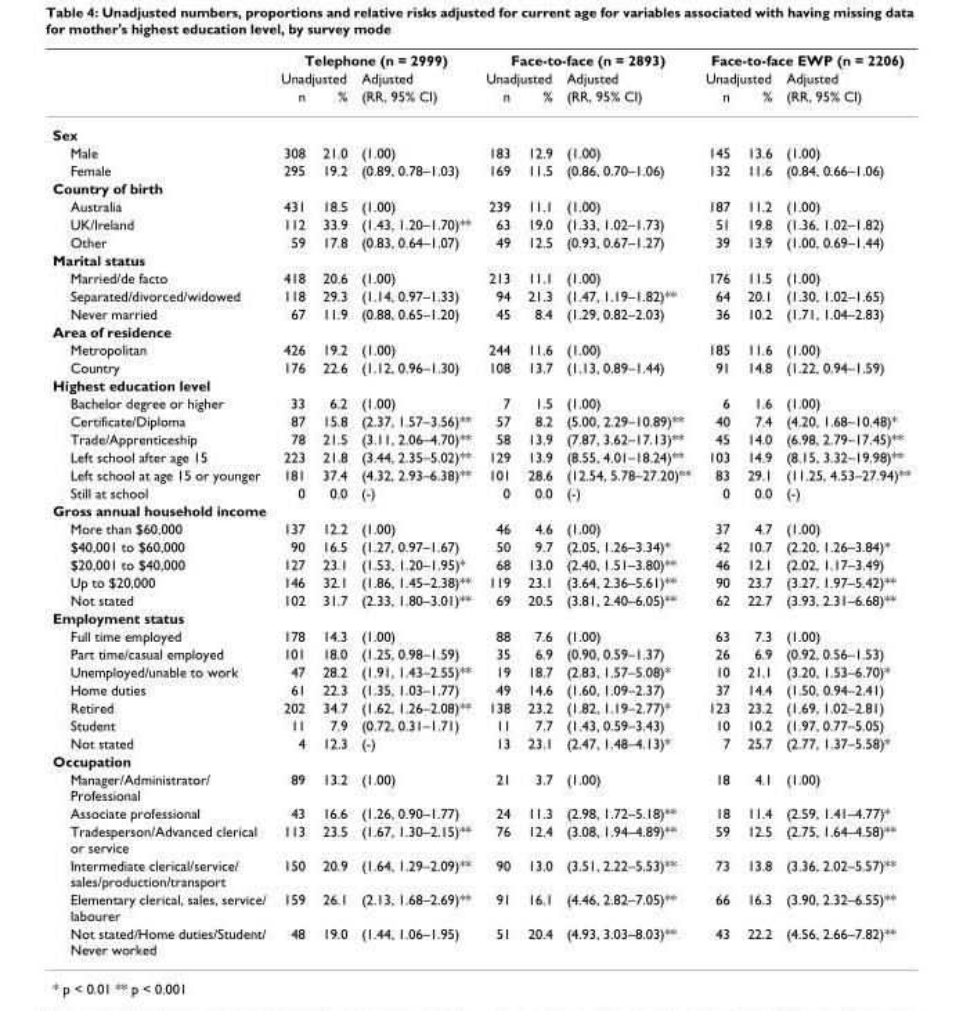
<table><thead><tr><td rowspan="3"></td><td colspan="3">Telephone (n = 2999)</td><td colspan="3">Face-to-face (n = 2893)</td><td colspan="3">Face-to-face EWP (n = 2206)</td></tr><tr><td colspan="2">Unadjusted</td><td rowspan="2">Adjusted (RR, 95% CI)</td><td colspan="2">Unadjusted</td><td rowspan="2">Adjusted (RR, 95% CI)</td><td colspan="2">Unadjusted</td><td rowspan="2">Adjusted (RR, 95% CI)</td></tr><tr><td>n</td><td>%</td><td>n</td><td>%</td><td>n</td><td>%</td></tr></thead><tbody><tr><td colspan="10">Sex</td></tr><tr><td>Male</td><td>308</td><td>21.0</td><td>(1.00)</td><td>183</td><td>12.9</td><td>(1.00)</td><td>145</td><td>13.6</td><td>(1.00)</td></tr><tr><td>Female</td><td>295</td><td>19.2</td><td>(0.89, 0.78–1.03)</td><td>169</td><td>11.5</td><td>(0.86, 0.70–1.06)</td><td>132</td><td>11.6</td><td>(0.84, 0.66–1.06)</td></tr><tr><td colspan="10">Country of birth</td></tr><tr><td>Australia</td><td>431</td><td>18.5</td><td>(1.00)</td><td>239</td><td>11.1</td><td>(1.00)</td><td>187</td><td>11.2</td><td>(1.00)</td></tr><tr><td>UK/Ireland</td><td>112</td><td>33.9</td><td>(1.43, 1.20–1.70)**</td><td>63</td><td>19.0</td><td>(1.33, 1.02–1.73)</td><td>51</td><td>19.8</td><td>(1.36, 1.02–1.82)</td></tr><tr><td>Other</td><td>59</td><td>17.8</td><td>(0.83, 0.64–1.07)</td><td>49</td><td>12.5</td><td>(0.93, 0.67–1.27)</td><td>39</td><td>13.9</td><td>(1.00, 0.69–1.44)</td></tr><tr><td colspan="10">Marital status</td></tr><tr><td>Married/de facto</td><td>418</td><td>20.6</td><td>(1.00)</td><td>213</td><td>11.1</td><td>(1.00)</td><td>176</td><td>11.5</td><td>(1.00)</td></tr><tr><td>Separated/divorced/widowed</td><td>118</td><td>29.3</td><td>(1.14, 0.97–1.33)</td><td>94</td><td>21.3</td><td>(1.47, 1.19–1.82)**</td><td>64</td><td>20.1</td><td>(1.30, 1.02–1.65)</td></tr><tr><td>Never married</td><td>67</td><td>11.9</td><td>(0.88, 0.65–1.20)</td><td>45</td><td>8.4</td><td>(1.29, 0.82–2.03)</td><td>36</td><td>10.2</td><td>(1.71, 1.04–2.83)</td></tr><tr><td colspan="10">Area of residence</td></tr><tr><td>Metropolitan</td><td>426</td><td>19.2</td><td>(1.00)</td><td>244</td><td>11.6</td><td>(1.00)</td><td>185</td><td>11.6</td><td>(1.00)</td></tr><tr><td>Country</td><td>176</td><td>22.6</td><td>(1.12, 0.96–1.30)</td><td>108</td><td>13.7</td><td>(1.13, 0.89–1.44)</td><td>91</td><td>14.8</td><td>(1.22, 0.94–1.59)</td></tr><tr><td colspan="10">Highest education level</td></tr><tr><td>Bachelor degree or higher</td><td>33</td><td>6.2</td><td>(1.00)</td><td>7</td><td>1.5</td><td>(1.00)</td><td>6</td><td>1.6</td><td>(1.00)</td></tr><tr><td>Certificate/Diploma</td><td>87</td><td>15.8</td><td>(2.37, 1.57–3.56)**</td><td>57</td><td>8.2</td><td>(5.00, 2.29–10.89)**</td><td>40</td><td>7.4</td><td>(4.20, 1.68–10.48)*</td></tr><tr><td>Trade/Apprenticeship</td><td>78</td><td>21.5</td><td>(3.11, 2.06–4.70)**</td><td>58</td><td>13.9</td><td>(7.87, 3.62–17.13)**</td><td>45</td><td>14.0</td><td>(6.98, 2.79–17.45)**</td></tr><tr><td>Left school after age 15</td><td>223</td><td>21.8</td><td>(3.44, 2.35–5.02)**</td><td>129</td><td>13.9</td><td>(8.55, 4.01–18.24)**</td><td>103</td><td>14.9</td><td>(8.15, 3.32–19.98)**</td></tr><tr><td>Left school at age 15 or younger</td><td>181</td><td>37.4</td><td>(4.32, 2.93–6.38)**</td><td>101</td><td>28.6</td><td>(12.54, 5.78–27.20)**</td><td>83</td><td>29.1</td><td>(11.25, 4.53–27.94)**</td></tr><tr><td>Still at school</td><td>0</td><td>0.0</td><td>(-)</td><td>0</td><td>0.0</td><td>(-)</td><td>0</td><td>0.0</td><td>(-)</td></tr><tr><td colspan="10">Gross annual household income</td></tr><tr><td>More than $60,000</td><td>137</td><td>12.2</td><td>(1.00)</td><td>46</td><td>4.6</td><td>(1.00)</td><td>37</td><td>4.7</td><td>(1.00)</td></tr><tr><td>$40,001 to $60,000</td><td>90</td><td>16.5</td><td>(1.27, 0.97–1.67)</td><td>50</td><td>9.7</td><td>(2.05, 1.26–3.34)*</td><td>42</td><td>10.7</td><td>(2.20, 1.26–3.84)*</td></tr><tr><td>$20,001 to $40,000</td><td>127</td><td>23.1</td><td>(1.53, 1.20–1.95)*</td><td>68</td><td>13.0</td><td>(2.40, 1.51–3.80)**</td><td>46</td><td>12.1</td><td>(2.02, 1.17–3.49)</td></tr><tr><td>Up to $20,000</td><td>146</td><td>32.1</td><td>(1.86, 1.45–2.38)**</td><td>119</td><td>23.1</td><td>(3.64, 2.36–5.61)**</td><td>90</td><td>23.7</td><td>(3.27, 1.97–5.42)**</td></tr><tr><td>Not stated</td><td>102</td><td>31.7</td><td>(2.33, 1.80–3.01)**</td><td>69</td><td>20.5</td><td>(3.81, 2.40–6.05)**</td><td>62</td><td>22.7</td><td>(3.93, 2.31–6.68)**</td></tr><tr><td colspan="10">Employment status</td></tr><tr><td>Full time employed</td><td>178</td><td>14.3</td><td>(1.00)</td><td>88</td><td>7.6</td><td>(1.00)</td><td>63</td><td>7.3</td><td>(1.00)</td></tr><tr><td>Part time/casual employed</td><td>101</td><td>18.0</td><td>(1.25, 0.98–1.59)</td><td>35</td><td>6.9</td><td>(0.90, 0.59–1.37)</td><td>26</td><td>6.9</td><td>(0.92, 0.56–1.53)</td></tr><tr><td>Unemployed/unable to work</td><td>47</td><td>28.2</td><td>(1.91, 1.43–2.55)**</td><td>19</td><td>18.7</td><td>(2.83, 1.57–5.08)*</td><td>10</td><td>21.1</td><td>(3.20, 1.53–6.70)*</td></tr><tr><td>Home duties</td><td>61</td><td>22.3</td><td>(1.35, 1.03–1.77)</td><td>49</td><td>14.6</td><td>(1.60, 1.09–2.37)</td><td>37</td><td>14.4</td><td>(1.50, 0.94–2.41)</td></tr><tr><td>Retired</td><td>202</td><td>34.7</td><td>(1.62, 1.26–2.08)**</td><td>138</td><td>23.2</td><td>(1.82, 1.19–2.77)*</td><td>123</td><td>23.2</td><td>(1.69, 1.02–2.81)</td></tr><tr><td>Student</td><td>11</td><td>7.9</td><td>(0.72, 0.31–1.71)</td><td>11</td><td>7.7</td><td>(1.43, 0.59–3.43)</td><td>10</td><td>10.2</td><td>(1.97, 0.77–5.05)</td></tr><tr><td>Not stated</td><td>4</td><td>12.3</td><td>(-)</td><td>13</td><td>23.1</td><td>(2.47, 1.48–4.13)*</td><td>7</td><td>25.7</td><td>(2.77, 1.37–5.58)*</td></tr><tr><td colspan="10">Occupation</td></tr><tr><td>Manager/Administrator/ Professional</td><td>89</td><td>13.2</td><td>(1.00)</td><td>21</td><td>3.7</td><td>(1.00)</td><td>18</td><td>4.1</td><td>(1.00)</td></tr><tr><td>Associate professional</td><td>43</td><td>16.6</td><td>(1.26, 0.90–1.77)</td><td>24</td><td>11.3</td><td>(2.98, 1.72–5.18)**</td><td>18</td><td>11.4</td><td>(2.59, 1.41–4.77)*</td></tr><tr><td>Tradesperson/Advanced clerical or service</td><td>113</td><td>23.5</td><td>(1.67, 1.30–2.15)**</td><td>76</td><td>12.4</td><td>(3.08, 1.94–4.89)**</td><td>59</td><td>12.5</td><td>(2.75, 1.64–4.58)**</td></tr><tr><td>Intermediate clerical/service/ sales/production/transport</td><td>150</td><td>20.9</td><td>(1.64, 1.29–2.09)**</td><td>90</td><td>13.0</td><td>(3.51, 2.22–5.53)**</td><td>73</td><td>13.8</td><td>(3.36, 2.02–5.57)**</td></tr><tr><td>Elementary clerical, sales, service/ labourer</td><td>159</td><td>26.1</td><td>(2.13, 1.68–2.69)**</td><td>91</td><td>16.1</td><td>(4.46, 2.82–7.05)**</td><td>66</td><td>16.3</td><td>(3.90, 2.32–6.55)**</td></tr><tr><td>Not stated/Home duties/Student/ Never worked</td><td>48</td><td>19.0</td><td>(1.44, 1.06–1.95)</td><td>51</td><td>20.4</td><td>(4.93, 3.03–8.03)**</td><td>43</td><td>22.2</td><td>(4.56, 2.66–7.82)**</td></tr></tbody></table>